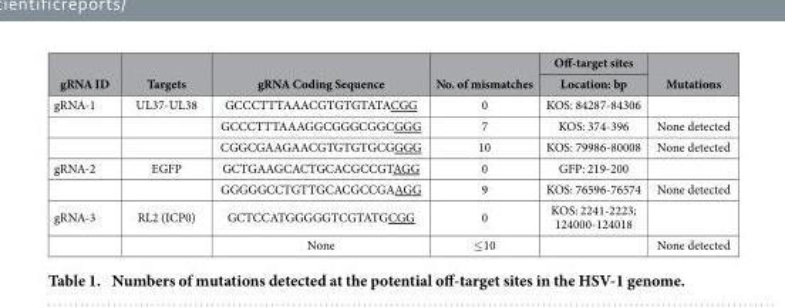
<table><thead><tr><td rowspan="2">gRNA ID</td><td rowspan="2">Targets</td><td rowspan="2">gRNA Coding Sequence</td><td rowspan="2">No. of mismatches</td><td rowspan="2">Off-target sites Location: bp</td><td rowspan="2">Mutations</td></tr><tr></tr></thead><tbody><tr><td rowspan="3">gRNA-1</td><td>UL37-UL38</td><td>GCCCTTTAAACGTGTGTATACGG</td><td>0</td><td>KOS: 84287-84306</td><td></td></tr><tr><td></td><td>GCCCTTTAAAGGCGGGCGGCGGG</td><td>7</td><td>KOS: 374-396</td><td>None detected</td></tr><tr><td></td><td>CGGCGAAGAACGTGTGTGCGGGG</td><td>10</td><td>KOS: 79986-80008</td><td>None detected</td></tr><tr><td rowspan="2">gRNA-2</td><td>EGFP</td><td>GCTGAAGCACTGCACGCCGTAGG</td><td>0</td><td>GFP: 219-200</td><td></td></tr><tr><td></td><td>GGGGGCCTGTTGCACGCCGAAGG</td><td>9</td><td>KOS: 76596-76574</td><td>None detected</td></tr><tr><td rowspan="2">gRNA-3</td><td>RL2 (ICP0)</td><td>GCTCCATGGGGGTCGTATGCGG</td><td>0</td><td>KOS: 2241-2223; 124000-124018</td><td></td></tr><tr><td></td><td>None</td><td>≤ 10</td><td></td><td>None detected</td></tr></tbody></table>